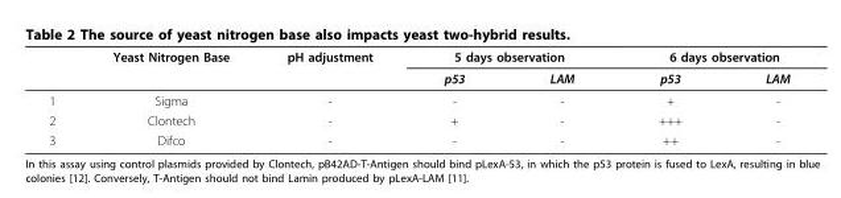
<table><thead><tr><td rowspan="2"></td><td rowspan="2">Yeast Nitrogen Base</td><td rowspan="2">pH adjustment</td><td colspan="2">5 days observation</td><td colspan="2">6 days observation</td></tr><tr><td>p53</td><td>LAM</td><td>p53</td><td>LAM</td></tr></thead><tbody><tr><td>1</td><td>Sigma</td><td>-</td><td>-</td><td>-</td><td>+</td><td>-</td></tr><tr><td>2</td><td>Clontech</td><td>-</td><td>+</td><td>-</td><td>+++</td><td>-</td></tr><tr><td>3</td><td>Difco</td><td>-</td><td>-</td><td>-</td><td>++</td><td>-</td></tr></tbody></table>